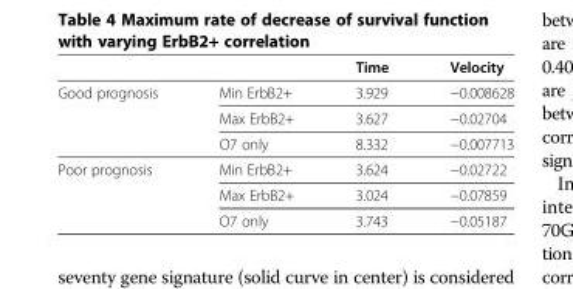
<table><thead><tr><td></td><td></td><td>Time</td><td>Velocity</td></tr></thead><tbody><tr><td rowspan="3">Good prognosis</td><td>Min ErbB2+</td><td>3.929</td><td>−0.008628</td></tr><tr><td>Max ErbB2+</td><td>3.627</td><td>−0.02704</td></tr><tr><td>O7 only</td><td>8.332</td><td>−0.007713</td></tr><tr><td rowspan="3">Poor prognosis</td><td>Min ErbB2+</td><td>3.624</td><td>−0.02722</td></tr><tr><td>Max ErbB2+</td><td>3.024</td><td>−0.07859</td></tr><tr><td>O7 only</td><td>3.743</td><td>−0.05187</td></tr></tbody></table>